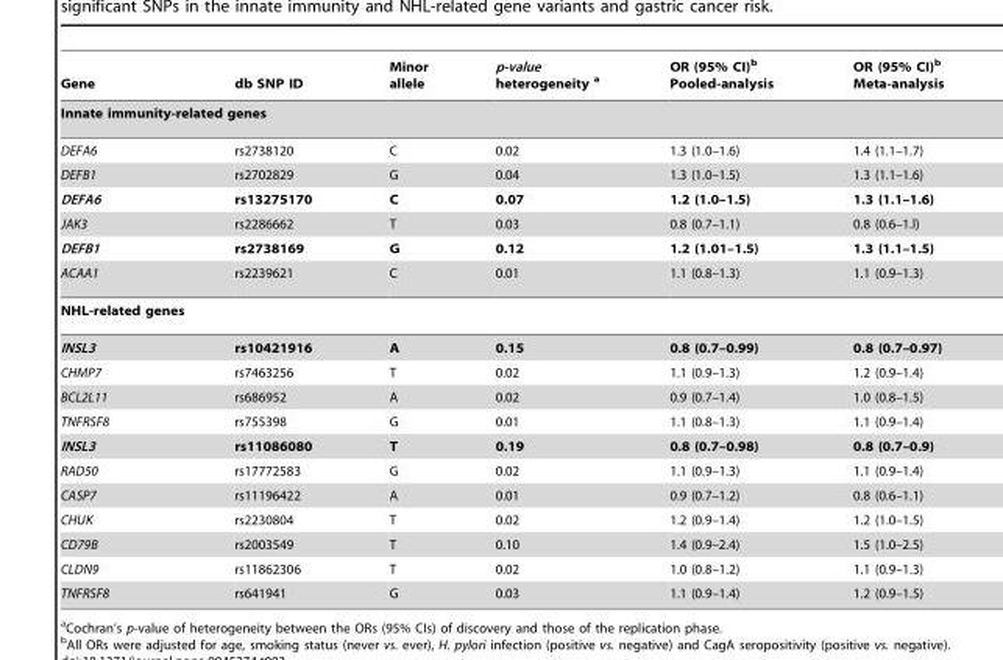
<table><thead><tr><td>Gene</td><td>db SNP ID</td><td>Minor allele</td><td>p-value heterogeneity a</td><td>OR (95% CI)<sup>b</sup> Pooled-analysis</td><td>OR (95% CI)<sup>b</sup> Meta-analysis</td></tr></thead><tbody><tr><td colspan="6">Innate immunity-related genes</td></tr><tr><td>DEFA6</td><td>rs2738120</td><td>C</td><td>0.02</td><td>1.3 (1.0–1.6)</td><td>1.4 (1.1–1.7)</td></tr><tr><td>DEFB1</td><td>rs2702829</td><td>G</td><td>0.04</td><td>1.3 (1.0–1.5)</td><td>1.3 (1.1–1.6)</td></tr><tr><td>DEFA6</td><td>rs13275170</td><td>C</td><td>0.07</td><td>1.2 (1.0–1.5)</td><td>1.3 (1.1–1.6)</td></tr><tr><td>JAK3</td><td>rs2286662</td><td>T</td><td>0.03</td><td>0.8 (0.7–1.1)</td><td>0.8 (0.6–1.l)</td></tr><tr><td>DEFB1</td><td>rs2738169</td><td>G</td><td>0.12</td><td>1.2 (1.01–1.5)</td><td>1.3 (1.1–1.5)</td></tr><tr><td>ACAA1</td><td>rs2239621</td><td>C</td><td>0.01</td><td>1.1 (0.8–1.3)</td><td>1.1 (0.9–1.3)</td></tr><tr><td colspan="6">NHL-related genes</td></tr><tr><td>INSL3</td><td>rs10421916</td><td>A</td><td>0.15</td><td>0.8 (0.7–0.99)</td><td>0.8 (0.7–0.97)</td></tr><tr><td>CHMP7</td><td>rs7463256</td><td>T</td><td>0.02</td><td>1.1 (0.9–1.3)</td><td>1.2 (0.9–1.4)</td></tr><tr><td>BCL2L11</td><td>rs686952</td><td>A</td><td>0.02</td><td>0.9 (0.7–1.4)</td><td>1.0 (0.8–1.5)</td></tr><tr><td>TNFRSF8</td><td>rs755398</td><td>G</td><td>0.01</td><td>1.1 (0.8–1.3)</td><td>1.1 (0.9–1.4)</td></tr><tr><td>INSL3</td><td>rs11086080</td><td>T</td><td>0.19</td><td>0.8 (0.7–0.98)</td><td>0.8 (0.7–0.9)</td></tr><tr><td>RAD50</td><td>rs17772583</td><td>G</td><td>0.02</td><td>1.1 (0.9–1.3)</td><td>1.1 (0.9–1.4)</td></tr><tr><td>CASP7</td><td>rs11196422</td><td>A</td><td>0.01</td><td>0.9 (0.7–1.2)</td><td>0.8 (0.6–1.1)</td></tr><tr><td>CHUK</td><td>rs2230804</td><td>T</td><td>0.02</td><td>1.2 (0.9–1.4)</td><td>1.2 (1.0–1.5)</td></tr><tr><td>CD79B</td><td>rs2003549</td><td>T</td><td>0.10</td><td>1.4 (0.9–2.4)</td><td>1.5 (1.0–2.5)</td></tr><tr><td>CLDN9</td><td>rs11862306</td><td>T</td><td>0.02</td><td>1.0 (0.8–1.2)</td><td>1.1 (0.9–1.3)</td></tr><tr><td>TNFRSF8</td><td>rs641941</td><td>G</td><td>0.03</td><td>1.1 (0.9–1.4)</td><td>1.2 (0.9–1.5)</td></tr></tbody></table>